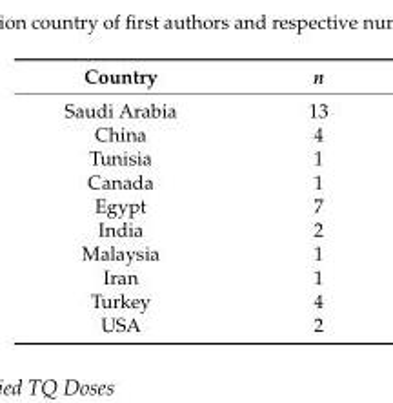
<table><thead><tr><td>Country</td><td>n</td></tr></thead><tbody><tr><td>Saudi Arabia</td><td>13</td></tr><tr><td>China</td><td>4</td></tr><tr><td>Tunisia</td><td>1</td></tr><tr><td>Canada</td><td>1</td></tr><tr><td>Egypt</td><td>7</td></tr><tr><td>India</td><td>2</td></tr><tr><td>Malaysia</td><td>1</td></tr><tr><td>Iran</td><td>1</td></tr><tr><td>Turkey</td><td>4</td></tr><tr><td>USA</td><td>2</td></tr></tbody></table>